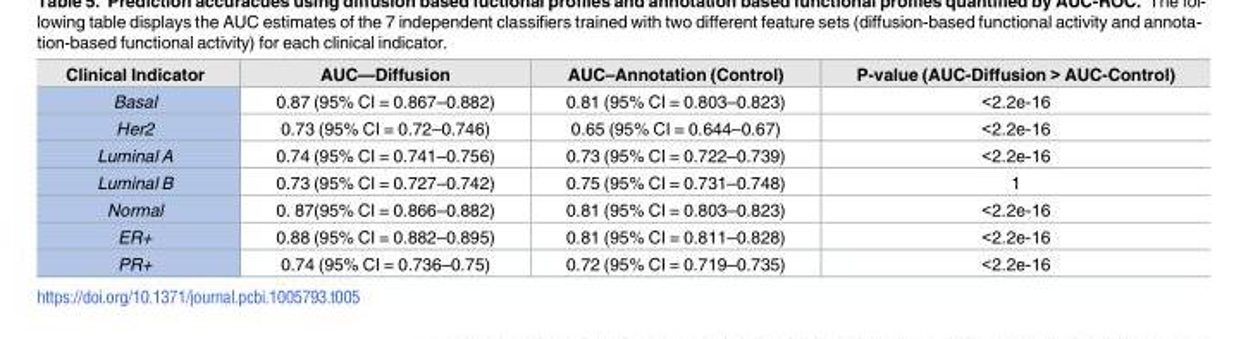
<table><thead><tr><td>Clinical Indicator</td><td>AUC—Diffusion</td><td>AUC–Annotation (Control)</td><td>P-value (AUC-Diffusion &gt; AUC-Control)</td></tr></thead><tbody><tr><td>Basal</td><td>0.87 (95% CI = 0.867–0.882)</td><td>0.81 (95% CI = 0.803–0.823)</td><td>&lt;2.2e-16</td></tr><tr><td>Her2</td><td>0.73 (95% CI = 0.72–0.746)</td><td>0.65 (95% CI = 0.644–0.67)</td><td>&lt;2.2e-16</td></tr><tr><td>Luminal A</td><td>0.74 (95% CI = 0.741–0.756)</td><td>0.73 (95% CI = 0.722–0.739)</td><td>&lt;2.2e-16</td></tr><tr><td>Luminal B</td><td>0.73 (95% CI = 0.727–0.742)</td><td>0.75 (95% CI = 0.731–0.748)</td><td>1</td></tr><tr><td>Normal</td><td>0. 87(95% CI = 0.866–0.882)</td><td>0.81 (95% CI = 0.803–0.823)</td><td>&lt;2.2e-16</td></tr><tr><td>ER+</td><td>0.88 (95% CI = 0.882–0.895)</td><td>0.81 (95% CI = 0.811–0.828)</td><td>&lt;2.2e-16</td></tr><tr><td>PR+</td><td>0.74 (95% CI = 0.736–0.75)</td><td>0.72 (95% CI = 0.719–0.735)</td><td>&lt;2.2e-16</td></tr></tbody></table>